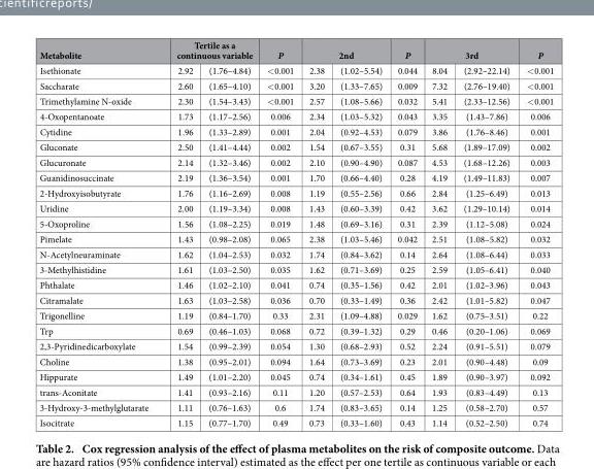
<table><thead><tr><td rowspan="2">Metabolite Isethionate</td><td colspan="2">Tertile as a continuous variable</td><td rowspan="2">P &lt; 0.001</td><td colspan="2">2nd</td><td rowspan="2">P 0.044</td><td colspan="2">3rd</td><td rowspan="2">P &lt; 0.001</td></tr><tr><td>2.92</td><td>(1.76–4.84)</td><td>2.38</td><td>(1.02–5.54)</td><td>8.04</td><td>(2.92–22.14)</td></tr></thead><tbody><tr><td>Saccharate</td><td>2.60</td><td>(1.65–4.10)</td><td>&lt; 0.001</td><td>3.20</td><td>(1.33–7.65)</td><td>0.009</td><td>7.32</td><td>(2.76–19.40)</td><td>&lt; 0.001</td></tr><tr><td>Trimethylamine N-oxide</td><td>2.30</td><td>(1.54–3.43)</td><td>&lt; 0.001</td><td>2.57</td><td>(1.08–5.66)</td><td>0.032</td><td>5.41</td><td>(2.33–12.56)</td><td>&lt; 0.001</td></tr><tr><td>4-Oxopentanoate</td><td>1.73</td><td>(1.17–2.56)</td><td>0.006</td><td>2.34</td><td>(1.03–5.32)</td><td>0.043</td><td>3.35</td><td>(1.43–7.86)</td><td>0.006</td></tr><tr><td>Cytidine</td><td>1.96</td><td>(1.33–2.89)</td><td>0.001</td><td>2.04</td><td>(0.92–4.53)</td><td>0.079</td><td>3.86</td><td>(1.76–8.46)</td><td>0.001</td></tr><tr><td>Gluconate</td><td>2.50</td><td>(1.41–4.44)</td><td>0.002</td><td>1.54</td><td>(0.67–3.55)</td><td>0.31</td><td>5.68</td><td>(1.89–17.09)</td><td>0.002</td></tr><tr><td>Glucuronate</td><td>2.14</td><td>(1.32–3.46)</td><td>0.002</td><td>2.10</td><td>(0.90–4.90)</td><td>0.087</td><td>4.53</td><td>(1.68–12.26)</td><td>0.003</td></tr><tr><td>Guanidinosuccinate</td><td>2.19</td><td>(1.36–3.54)</td><td>0.001</td><td>1.70</td><td>(0.66–4.40)</td><td>0.28</td><td>4.19</td><td>(1.49–11.83)</td><td>0.007</td></tr><tr><td>2-Hydroxyisobutyrate</td><td>1.76</td><td>(1.16–2.69)</td><td>0.008</td><td>1.19</td><td>(0.55–2.56)</td><td>0.66</td><td>2.84</td><td>(1.25–6.49)</td><td>0.013</td></tr><tr><td>Uridine</td><td>2.00</td><td>(1.19–3.34)</td><td>0.008</td><td>1.43</td><td>(0.60–3.39)</td><td>0.42</td><td>3.62</td><td>(1.29–10.14)</td><td>0.014</td></tr><tr><td>5-Oxoproline</td><td>1.56</td><td>(1.08–2.25)</td><td>0.019</td><td>1.48</td><td>(0.69–3.16)</td><td>0.31</td><td>2.39</td><td>(1.12–5.08)</td><td>0.024</td></tr><tr><td>Pimelate</td><td>1.43</td><td>(0.98–2.08)</td><td>0.065</td><td>2.38</td><td>(1.03–5.46)</td><td>0.042</td><td>2.51</td><td>(1.08–5.82)</td><td>0.032</td></tr><tr><td>N-Acetylneuraminate</td><td>1.62</td><td>(1.04–2.53)</td><td>0.032</td><td>1.74</td><td>(0.84–3.62)</td><td>0.14</td><td>2.64</td><td>(1.08–6.44)</td><td>0.033</td></tr><tr><td>3-Methylhistidine</td><td>1.61</td><td>(1.03–2.50)</td><td>0.035</td><td>1.62</td><td>(0.71–3.69)</td><td>0.25</td><td>2.59</td><td>(1.05–6.41)</td><td>0.040</td></tr><tr><td>Phthalate</td><td>1.46</td><td>(1.02–2.10)</td><td>0.041</td><td>0.74</td><td>(0.35–1.56)</td><td>0.42</td><td>2.01</td><td>(1.02–3.96)</td><td>0.043</td></tr><tr><td>Citramalate</td><td>1.63</td><td>(1.03–2.58)</td><td>0.036</td><td>0.70</td><td>(0.33–1.49)</td><td>0.36</td><td>2.42</td><td>(1.01–5.82)</td><td>0.047</td></tr><tr><td>Trigonelline</td><td>1.19</td><td>(0.84–1.70)</td><td>0.33</td><td>2.31</td><td>(1.09–4.88)</td><td>0.029</td><td>1.62</td><td>(0.75–3.51)</td><td>0.22</td></tr><tr><td>Trp</td><td>0.69</td><td>(0.46–1.03)</td><td>0.068</td><td>0.72</td><td>(0.39–1.32)</td><td>0.29</td><td>0.46</td><td>(0.20–1.06)</td><td>0.069</td></tr><tr><td>2,3-Pyridinedicarboxylate</td><td>1.54</td><td>(0.99–2.39)</td><td>0.054</td><td>1.30</td><td>(0.68–2.93)</td><td>0.52</td><td>2.24</td><td>(0.91–5.51)</td><td>0.079</td></tr><tr><td>Choline</td><td>1.38</td><td>(0.95–2.01)</td><td>0.094</td><td>1.64</td><td>(0.73–3.69)</td><td>0.23</td><td>2.01</td><td>(0.90–4.48)</td><td>0.09</td></tr><tr><td>Hippurate</td><td>1.49</td><td>(1.01–2.20)</td><td>0.045</td><td>0.74</td><td>(0.34–1.61)</td><td>0.45</td><td>1.89</td><td>(0.90–3.97)</td><td>0.092</td></tr><tr><td>trans-Aconitate</td><td>1.41</td><td>(0.93–2.16)</td><td>0.11</td><td>1.20</td><td>(0.57–2.53)</td><td>0.64</td><td>1.93</td><td>(0.83–4.49)</td><td>0.13</td></tr><tr><td>3-Hydroxy-3-methylglutarate</td><td>1.11</td><td>(0.76–1.63)</td><td>0.6</td><td>1.74</td><td>(0.83–3.65)</td><td>0.14</td><td>1.25</td><td>(0.58–2.70)</td><td>0.57</td></tr><tr><td>Isocitrate</td><td>1.15</td><td>(0.77–1.70)</td><td>0.49</td><td>0.73</td><td>(0.33–1.60)</td><td>0.43</td><td>1.14</td><td>(0.52–2.50)</td><td>0.74</td></tr></tbody></table>